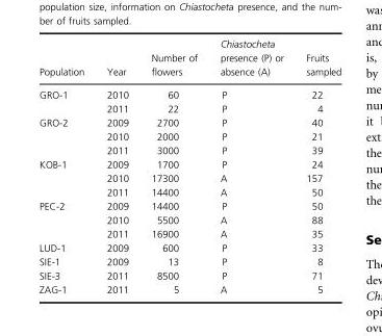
<table><thead><tr><td>Population</td><td>Year</td><td>Number of flowers</td><td>Chiastocheta presence (P) or absence (A)</td><td>Fruits sampled</td></tr></thead><tbody><tr><td rowspan="2">GRO-1</td><td>2010</td><td>60</td><td>P</td><td>22</td></tr><tr><td>2011</td><td>22</td><td>P</td><td>4</td></tr><tr><td rowspan="3">GRO-2</td><td>2009</td><td>2700</td><td>P</td><td>40</td></tr><tr><td>2010</td><td>2000</td><td>P</td><td>21</td></tr><tr><td>2011</td><td>3000</td><td>P</td><td>39</td></tr><tr><td rowspan="3">KOB-1</td><td>2009</td><td>1700</td><td>P</td><td>24</td></tr><tr><td>2010</td><td>17300</td><td>A</td><td>157</td></tr><tr><td>2011</td><td>14400</td><td>A</td><td>50</td></tr><tr><td rowspan="3">PEC-2</td><td>2009</td><td>14400</td><td>P</td><td>50</td></tr><tr><td>2010</td><td>5500</td><td>A</td><td>88</td></tr><tr><td>2011</td><td>16900</td><td>A</td><td>35</td></tr><tr><td>LUD-1</td><td>2009</td><td>600</td><td>P</td><td>33</td></tr><tr><td>SIE-1</td><td>2009</td><td>13</td><td>P</td><td>8</td></tr><tr><td>SIE-3</td><td>2011</td><td>8500</td><td>P</td><td>71</td></tr><tr><td>ZAG-1</td><td>2011</td><td>5</td><td>A</td><td>5</td></tr></tbody></table>